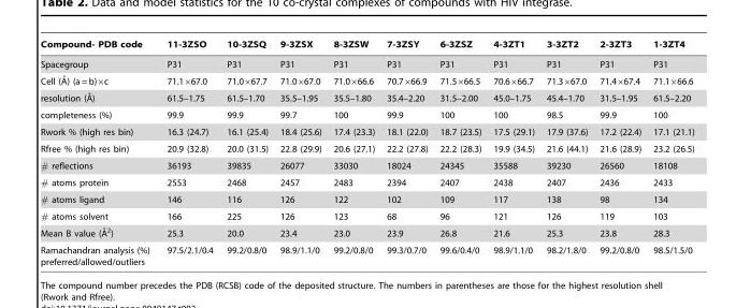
<table><thead><tr><td>Compound- PDB code</td><td>11-3ZSO</td><td>10-3ZSQ</td><td>9-3ZSX</td><td>8-3ZSW</td><td>7-3ZSY</td><td>6-3ZSZ</td><td>4-3ZT1</td><td>3-3ZT2</td><td>2-3ZT3</td><td>1-3ZT4</td></tr></thead><tbody><tr><td>Spacegroup</td><td>P31</td><td>P31</td><td>P31</td><td>P31</td><td>P31</td><td>P31</td><td>P31</td><td>P31</td><td>P31</td><td>P31</td></tr><tr><td>Cell (A˚) (a = b)6c</td><td>71.1×67.0</td><td>71.0×67.7</td><td>71.0×67.0</td><td>71.0×66.6</td><td>70.7×66.9</td><td>71.5×66.5</td><td>70.6×66.7</td><td>71.3×67.0</td><td>71.4×67.4</td><td>71.1×66.6</td></tr><tr><td>resolution (A˚)</td><td>61.5–1.75</td><td>61.5–1.70</td><td>35.5–1.95</td><td>35.5–1.80</td><td>35.4–2.20</td><td>31.5–2.00</td><td>45.0–1.75</td><td>45.4–1.70</td><td>31.5–1.95</td><td>61.5–2.20</td></tr><tr><td>completeness (%)</td><td>99.9</td><td>99.9</td><td>99.7</td><td>100</td><td>99.9</td><td>100</td><td>100</td><td>98.5</td><td>99.9</td><td>100</td></tr><tr><td>Rwork % (high res bin)</td><td>16.3 (24.7)</td><td>16.1 (25.4)</td><td>18.4 (25.6)</td><td>17.4 (23.3)</td><td>18.1 (22.0)</td><td>18.7 (23.5)</td><td>17.5 (29.1)</td><td>17.9 (37.6)</td><td>17.2 (22.4)</td><td>17.1 (21.1)</td></tr><tr><td>Rfree % (high res bin)</td><td>20.9 (32.8)</td><td>20.0 (31.5)</td><td>22.8 (29.9)</td><td>20.6 (27.1)</td><td>22.2 (27.8)</td><td>22.2 (28.3)</td><td>19.9 (34.5)</td><td>21.6 (44.1)</td><td>21.6 (28.9)</td><td>23.2 (26.5)</td></tr><tr><td># reflections</td><td>36193</td><td>39835</td><td>26077</td><td>33030</td><td>18024</td><td>24345</td><td>35588</td><td>39230</td><td>26560</td><td>18108</td></tr><tr><td># atoms protein</td><td>2553</td><td>2468</td><td>2457</td><td>2483</td><td>2394</td><td>2407</td><td>2438</td><td>2407</td><td>2436</td><td>2433</td></tr><tr><td># atoms ligand</td><td>146</td><td>116</td><td>126</td><td>122</td><td>102</td><td>109</td><td>117</td><td>138</td><td>98</td><td>134</td></tr><tr><td># atoms solvent</td><td>166</td><td>225</td><td>126</td><td>123</td><td>68</td><td>96</td><td>121</td><td>126</td><td>119</td><td>103</td></tr><tr><td>Mean B value (A˚2)</td><td>25.3</td><td>20.0</td><td>23.4</td><td>23.0</td><td>23.9</td><td>26.8</td><td>21.6</td><td>25.3</td><td>23.8</td><td>28.3</td></tr><tr><td>Ramachandran analysis (%) preferred/allowed/outliers</td><td>97.5/2.1/0.4</td><td>99.2/0.8/0</td><td>98.9/1.1/0</td><td>99.2/0.8/0</td><td>99.3/0.7/0</td><td>99.6/0.4/0</td><td>98.9/1.1/0</td><td>98.2/1.8/0</td><td>99.2/0.8/0</td><td>98.5/1.5/0</td></tr></tbody></table>